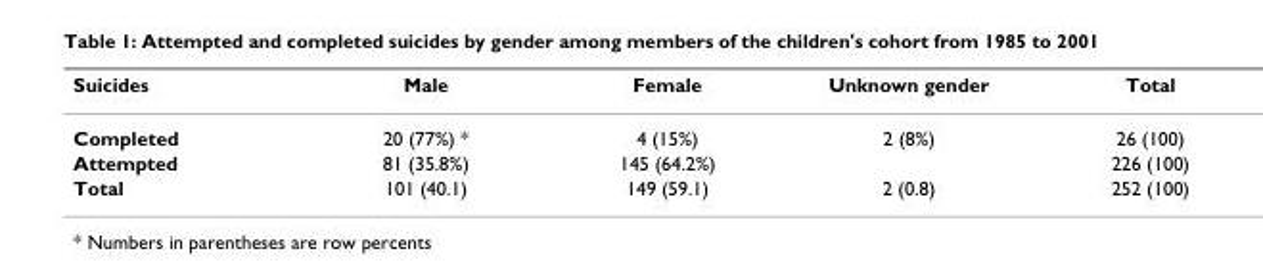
<table><thead><tr><td>Suicides</td><td>Male</td><td>Female</td><td>Unknown gender</td><td>Total</td></tr></thead><tbody><tr><td>Completed</td><td>20 (77%) *</td><td>4 (15%)</td><td>2 (8%)</td><td>26 (100)</td></tr><tr><td>Attempted</td><td>81 (35.8%)</td><td>145 (64.2%)</td><td></td><td>226 (100)</td></tr><tr><td>Total</td><td>101 (40.1)</td><td>149 (59.1)</td><td>2 (0.8)</td><td>252 (100)</td></tr></tbody></table>